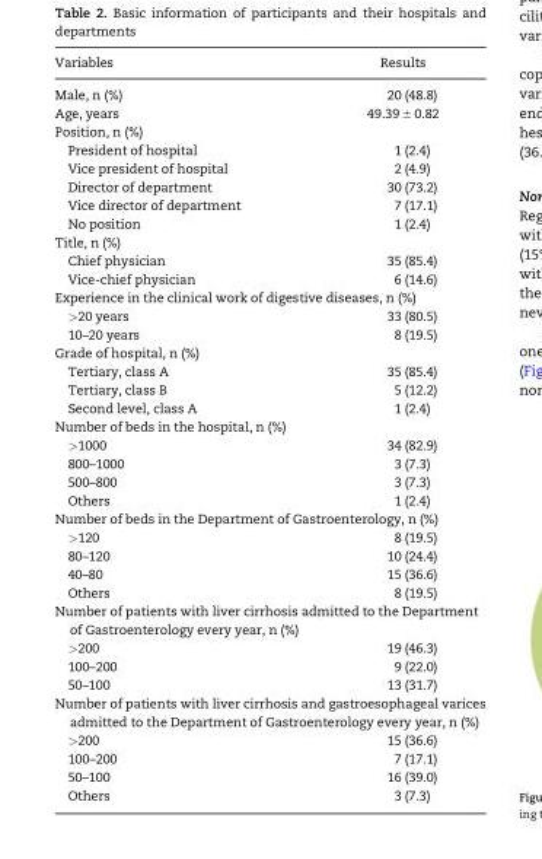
<table><thead><tr><td>Variables</td><td>Results</td></tr></thead><tbody><tr><td>Male, n (%)</td><td>20 (48.8)</td></tr><tr><td>Age, years</td><td>49.39 ± 0.82</td></tr><tr><td colspan="2">Position, n (%)</td></tr><tr><td>President of hospital</td><td>1 (2.4)</td></tr><tr><td>Vice president of hospital</td><td>2 (4.9)</td></tr><tr><td>Director of department</td><td>30 (73.2)</td></tr><tr><td>Vice director of department</td><td>7 (17.1)</td></tr><tr><td>No position</td><td>1 (2.4)</td></tr><tr><td colspan="2">Title, n (%)</td></tr><tr><td>Chief physician</td><td>35 (85.4)</td></tr><tr><td>Vice-chief physician</td><td>6 (14.6)</td></tr><tr><td colspan="2">Experience in the clinical work of digestive diseases, n (%)</td></tr><tr><td>&gt;20 years</td><td>33 (80.5)</td></tr><tr><td>10–20 years</td><td>8 (19.5)</td></tr><tr><td colspan="2">Grade of hospital, n (%)</td></tr><tr><td>Tertiary, class A</td><td>35 (85.4)</td></tr><tr><td>Tertiary, class B</td><td>5 (12.2)</td></tr><tr><td>Second level, class A</td><td>1 (2.4)</td></tr><tr><td colspan="2">Number of beds in the hospital, n (%)</td></tr><tr><td>&gt;1000</td><td>34 (82.9)</td></tr><tr><td>800–1000</td><td>3 (7.3)</td></tr><tr><td>500–800</td><td>3 (7.3)</td></tr><tr><td>Others</td><td>1 (2.4)</td></tr><tr><td colspan="2">Number of beds in the Department of Gastroenterology, n (%)</td></tr><tr><td>&gt;120</td><td>8 (19.5)</td></tr><tr><td>80–120</td><td>10 (24.4)</td></tr><tr><td>40–80</td><td>15 (36.6)</td></tr><tr><td>Others</td><td>8 (19.5)</td></tr><tr><td colspan="2">Number of patients with liver cirrhosis admitted to the Department of Gastroenterology every year, n (%)</td></tr><tr><td>&gt;200</td><td>19 (46.3)</td></tr><tr><td>100–200</td><td>9 (22.0)</td></tr><tr><td>50–100</td><td>13 (31.7)</td></tr><tr><td colspan="2">Number of patients with liver cirrhosis and gastroesophageal varices admitted to the Department of Gastroenterology every year, n (%)</td></tr><tr><td>&gt;200</td><td>15 (36.6)</td></tr><tr><td>100–200</td><td>7 (17.1)</td></tr><tr><td>50–100</td><td>16 (39.0)</td></tr><tr><td>Others</td><td>3 (7.3)</td></tr></tbody></table>